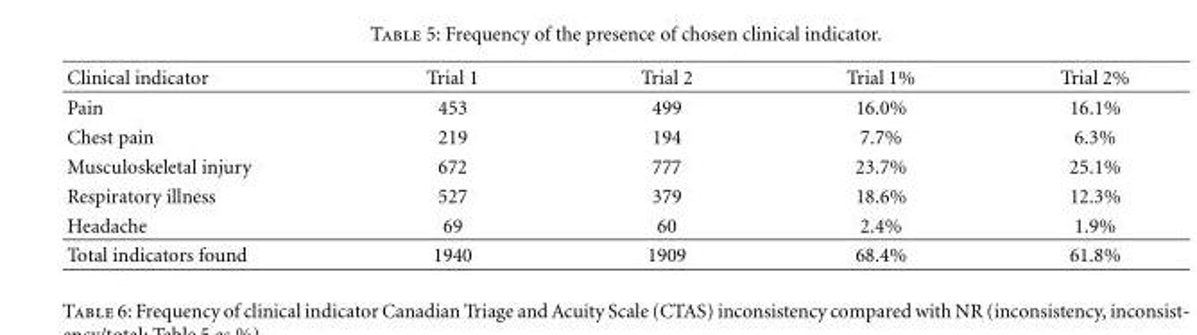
<table><thead><tr><td>Clinical indicator</td><td>Trial 1</td><td>Trial 2</td><td>Trial 1%</td><td>Trial 2%</td></tr></thead><tbody><tr><td>Pain</td><td>453</td><td>499</td><td>16.0%</td><td>16.1%</td></tr><tr><td>Chest pain</td><td>219</td><td>194</td><td>7.7%</td><td>6.3%</td></tr><tr><td>Musculoskeletal injury</td><td>672</td><td>777</td><td>23.7%</td><td>25.1%</td></tr><tr><td>Respiratory illness</td><td>527</td><td>379</td><td>18.6%</td><td>12.3%</td></tr><tr><td>Headache</td><td>69</td><td>60</td><td>2.4%</td><td>1.9%</td></tr><tr><td>Total indicators found</td><td>1940</td><td>1909</td><td>68.4%</td><td>61.8%</td></tr></tbody></table>